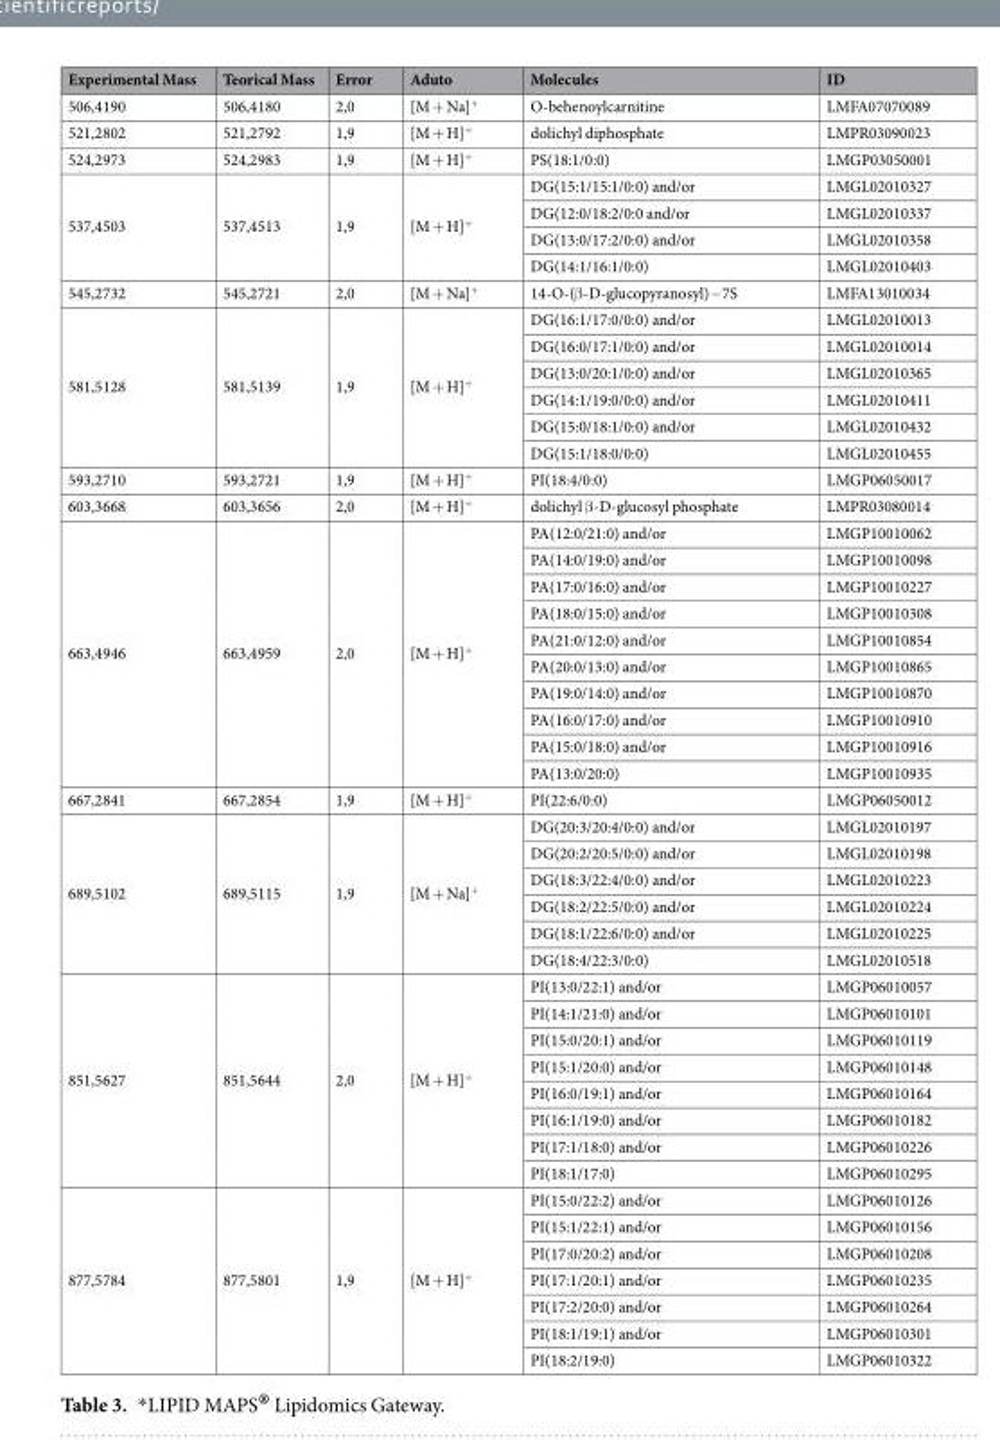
<table><thead><tr><td>Experimental Mass</td><td>Teorical Mass</td><td>Error</td><td>Aduto</td><td>Molecules</td><td>ID</td></tr></thead><tbody><tr><td>506,4190</td><td>506,4180</td><td>2,0</td><td>[M + Na]<sup>+</sup></td><td>O-behenoylcarnitine</td><td>LMFA07070089</td></tr><tr><td>521,2802</td><td>521,2792</td><td>1,9</td><td>[M + H]<sup>+</sup></td><td>dolichyl diphosphate</td><td>LMPR03090023</td></tr><tr><td>524,2973</td><td>524,2983</td><td>1,9</td><td>[M + H]<sup>+</sup></td><td>PS(18:1/0:0)</td><td>LMGP03050001</td></tr><tr><td rowspan="4">537,4503</td><td rowspan="4">537,4513</td><td rowspan="4">1,9</td><td rowspan="4">[M + H]<sup>+</sup></td><td>DG(15:1/15:1/0:0) and/or</td><td>LMGL02010327</td></tr><tr><td>DG(12:0/18:2/0:0 and/or</td><td>LMGL02010337</td></tr><tr><td>DG(13:0/17:2/0:0) and/or</td><td>LMGL02010358</td></tr><tr><td>DG(14:1/16:1/0:0)</td><td>LMGL02010403</td></tr><tr><td>545,2732</td><td>545,2721</td><td>2,0</td><td>[M + Na]<sup>+</sup></td><td>14-O-(β-D-glucopyranosyl)−7S</td><td>LMFA13010034</td></tr><tr><td rowspan="6">581,5128</td><td rowspan="6">581,5139</td><td rowspan="6">1,9</td><td rowspan="6">[M + H]<sup>+</sup></td><td>DG(16:1/17:0/0:0) and/or</td><td>LMGL02010013</td></tr><tr><td>DG(16:0/17:1/0:0) and/or</td><td>LMGL02010014</td></tr><tr><td>DG(13:0/20:1/0:0) and/or</td><td>LMGL02010365</td></tr><tr><td>DG(14:1/19:0/0:0) and/or</td><td>LMGL02010411</td></tr><tr><td>DG(15:0/18:1/0:0) and/or</td><td>LMGL02010432</td></tr><tr><td>DG(15:1/18:0/0:0)</td><td>LMGL02010455</td></tr><tr><td>593,2710</td><td>593,2721</td><td>1,9</td><td>[M + H]<sup>+</sup></td><td>PI(18:4/0:0)</td><td>LMGP06050017</td></tr><tr><td>603,3668</td><td>603,3656</td><td>2,0</td><td>[M + H]<sup>+</sup></td><td>dolichyl β-D-glucosyl phosphate</td><td>LMPR03080014</td></tr><tr><td rowspan="10">663,4946</td><td rowspan="10">663,4959</td><td rowspan="10">2,0</td><td rowspan="10">[M + H]<sup>+</sup></td><td>PA(12:0/21:0) and/or</td><td>LMGP10010062</td></tr><tr><td>PA(14:0/19:0) and/or</td><td>LMGP10010098</td></tr><tr><td>PA(17:0/16:0) and/or</td><td>LMGP10010227</td></tr><tr><td>PA(18:0/15:0) and/or</td><td>LMGP10010308</td></tr><tr><td>PA(21:0/12:0) and/or</td><td>LMGP10010854</td></tr><tr><td>PA(20:0/13:0) and/or</td><td>LMGP10010865</td></tr><tr><td>PA(19:0/14:0) and/or</td><td>LMGP10010870</td></tr><tr><td>PA(16:0/17:0) and/or</td><td>LMGP10010910</td></tr><tr><td>PA(15:0/18:0) and/or</td><td>LMGP10010916</td></tr><tr><td>PA(13:0/20:0)</td><td>LMGP10010935</td></tr><tr><td>667,2841</td><td>667,2854</td><td>1,9</td><td>[M + H]<sup>+</sup></td><td>PI(22:6/0:0)</td><td>LMGP06050012</td></tr><tr><td rowspan="6">689,5102</td><td rowspan="6">689,5115</td><td rowspan="6">1,9</td><td rowspan="6">[M + Na]<sup>+</sup></td><td>DG(20:3/20:4/0:0) and/or</td><td>LMGL02010197</td></tr><tr><td>DG(20:2/20:5/0:0) and/or</td><td>LMGL02010198</td></tr><tr><td>DG(18:3/22:4/0:0) and/or</td><td>LMGL02010223</td></tr><tr><td>DG(18:2/22:5/0:0) and/or</td><td>LMGL02010224</td></tr><tr><td>DG(18:1/22:6/0:0) and/or</td><td>LMGL02010225</td></tr><tr><td>DG(18:4/22:3/0:0)</td><td>LMGL02010518</td></tr><tr><td rowspan="8">851,5627</td><td rowspan="8">851,5644</td><td rowspan="8">2,0</td><td rowspan="8">[M + H]<sup>+</sup></td><td>PI(13:0/22:1) and/or</td><td>LMGP06010057</td></tr><tr><td>PI(14:1/21:0) and/or</td><td>LMGP06010101</td></tr><tr><td>PI(15:0/20:1) and/or</td><td>LMGP06010119</td></tr><tr><td>PI(15:1/20:0) and/or</td><td>LMGP06010148</td></tr><tr><td>PI(16:0/19:1) and/or</td><td>LMGP06010164</td></tr><tr><td>PI(16:1/19:0) and/or</td><td>LMGP06010182</td></tr><tr><td>PI(17:1/18:0) and/or</td><td>LMGP06010226</td></tr><tr><td>PI(18:1/17:0)</td><td>LMGP06010295</td></tr><tr><td rowspan="7">877,5784</td><td rowspan="7">877,5801</td><td rowspan="7">1,9</td><td rowspan="7">[M + H]<sup>+</sup></td><td>PI(15:0/22:2) and/or</td><td>LMGP06010126</td></tr><tr><td>PI(15:1/22:1) and/or</td><td>LMGP06010156</td></tr><tr><td>PI(17:0/20:2) and/or</td><td>LMGP06010208</td></tr><tr><td>PI(17:1/20:1) and/or</td><td>LMGP06010235</td></tr><tr><td>PI(17:2/20:0) and/or</td><td>LMGP06010264</td></tr><tr><td>PI(18:1/19:1) and/or</td><td>LMGP06010301</td></tr><tr><td>PI(18:2/19:0)</td><td>LMGP06010322</td></tr></tbody></table>